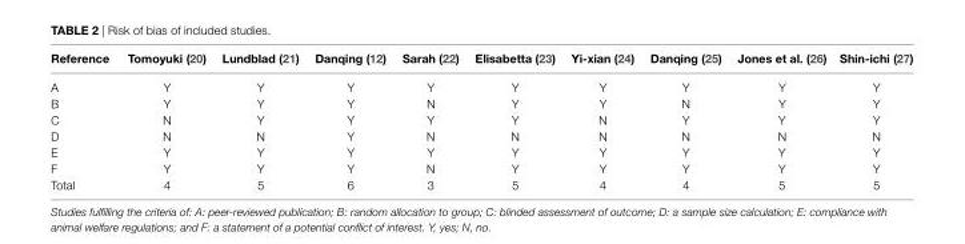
<table><thead><tr><td>Reference</td><td>Tomoyuki (20)</td><td>Lundblad (21)</td><td>Danqing (12)</td><td>Sarah (22)</td><td>Elisabetta (23)</td><td>Yi-xian (24)</td><td>Danqing (25)</td><td>Jones et al. (26)</td><td>Shin-ichi (27)</td></tr></thead><tbody><tr><td>A</td><td>Y</td><td>Y</td><td>Y</td><td>Y</td><td>Y</td><td>Y</td><td>Y</td><td>Y</td><td>Y</td></tr><tr><td>B</td><td>Y</td><td>Y</td><td>Y</td><td>N</td><td>Y</td><td>Y</td><td>N</td><td>Y</td><td>Y</td></tr><tr><td>C</td><td>N</td><td>Y</td><td>Y</td><td>Y</td><td>Y</td><td>N</td><td>Y</td><td>Y</td><td>Y</td></tr><tr><td>D</td><td>N</td><td>N</td><td>Y</td><td>N</td><td>N</td><td>N</td><td>N</td><td>N</td><td>N</td></tr><tr><td>E</td><td>Y</td><td>Y</td><td>Y</td><td>Y</td><td>Y</td><td>Y</td><td>Y</td><td>Y</td><td>Y</td></tr><tr><td>F</td><td>Y</td><td>Y</td><td>Y</td><td>N</td><td>Y</td><td>Y</td><td>Y</td><td>Y</td><td>Y</td></tr><tr><td>Total</td><td>4</td><td>5</td><td>6</td><td>3</td><td>5</td><td>4</td><td>4</td><td>5</td><td>5</td></tr></tbody></table>